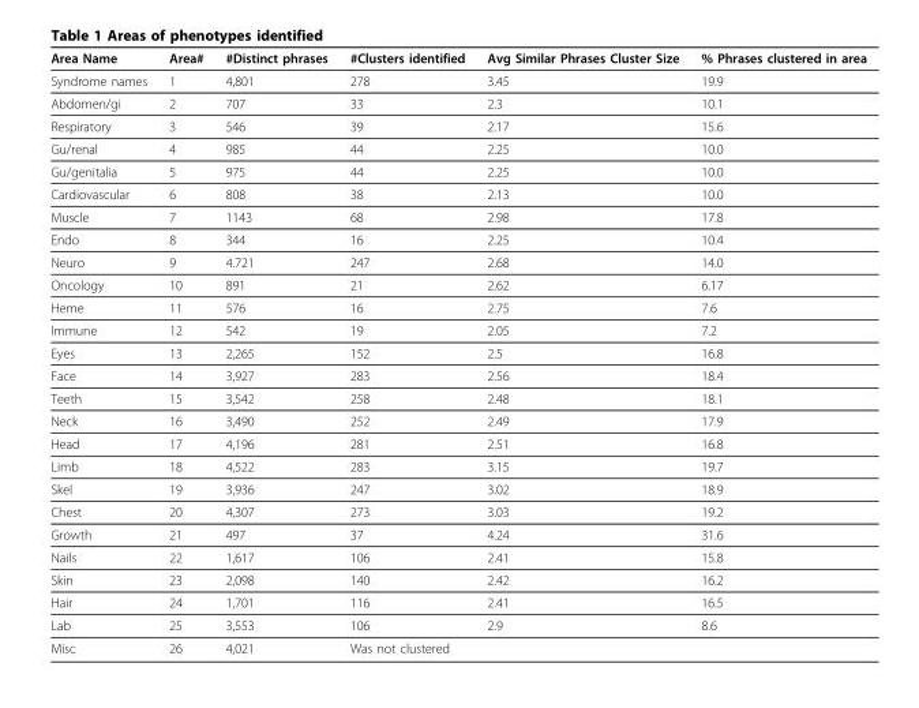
<table><thead><tr><td>Area Name</td><td>Area#</td><td>#Distinct phrases</td><td>#Clusters identified</td><td>Avg Similar Phrases Cluster Size</td><td>% Phrases clustered in area</td></tr></thead><tbody><tr><td>Syndrome names</td><td>1</td><td>4,801</td><td>278</td><td>3.45</td><td>19.9</td></tr><tr><td>Abdomen/gi</td><td>2</td><td>707</td><td>33</td><td>2.3</td><td>10.1</td></tr><tr><td>Respiratory</td><td>3</td><td>546</td><td>39</td><td>2.17</td><td>15.6</td></tr><tr><td>Gu/renal</td><td>4</td><td>985</td><td>44</td><td>2.25</td><td>10.0</td></tr><tr><td>Gu/genitalia</td><td>5</td><td>975</td><td>44</td><td>2.25</td><td>10.0</td></tr><tr><td>Cardiovascular</td><td>6</td><td>808</td><td>38</td><td>2.13</td><td>10.0</td></tr><tr><td>Muscle</td><td>7</td><td>1143</td><td>68</td><td>2.98</td><td>17.8</td></tr><tr><td>Endo</td><td>8</td><td>344</td><td>16</td><td>2.25</td><td>10.4</td></tr><tr><td>Neuro</td><td>9</td><td>4.721</td><td>247</td><td>2.68</td><td>14.0</td></tr><tr><td>Oncology</td><td>10</td><td>891</td><td>21</td><td>2.62</td><td>6.17</td></tr><tr><td>Heme</td><td>11</td><td>576</td><td>16</td><td>2.75</td><td>7.6</td></tr><tr><td>Immune</td><td>12</td><td>542</td><td>19</td><td>2.05</td><td>7.2</td></tr><tr><td>Eyes</td><td>13</td><td>2,265</td><td>152</td><td>2.5</td><td>16.8</td></tr><tr><td>Face</td><td>14</td><td>3,927</td><td>283</td><td>2.56</td><td>18.4</td></tr><tr><td>Teeth</td><td>15</td><td>3,542</td><td>258</td><td>2.48</td><td>18.1</td></tr><tr><td>Neck</td><td>16</td><td>3,490</td><td>252</td><td>2.49</td><td>17.9</td></tr><tr><td>Head</td><td>17</td><td>4,196</td><td>281</td><td>2.51</td><td>16.8</td></tr><tr><td>Limb</td><td>18</td><td>4,522</td><td>283</td><td>3.15</td><td>19.7</td></tr><tr><td>Skel</td><td>19</td><td>3,936</td><td>247</td><td>3.02</td><td>18.9</td></tr><tr><td>Chest</td><td>20</td><td>4,307</td><td>273</td><td>3.03</td><td>19.2</td></tr><tr><td>Growth</td><td>21</td><td>497</td><td>37</td><td>4.24</td><td>31.6</td></tr><tr><td>Nails</td><td>22</td><td>1,617</td><td>106</td><td>2.41</td><td>15.8</td></tr><tr><td>Skin</td><td>23</td><td>2,098</td><td>140</td><td>2.42</td><td>16.2</td></tr><tr><td>Hair</td><td>24</td><td>1,701</td><td>116</td><td>2.41</td><td>16.5</td></tr><tr><td>Lab</td><td>25</td><td>3,553</td><td>106</td><td>2.9</td><td>8.6</td></tr><tr><td>Misc</td><td>26</td><td>4,021</td><td>Was not clustered</td><td></td><td></td></tr></tbody></table>